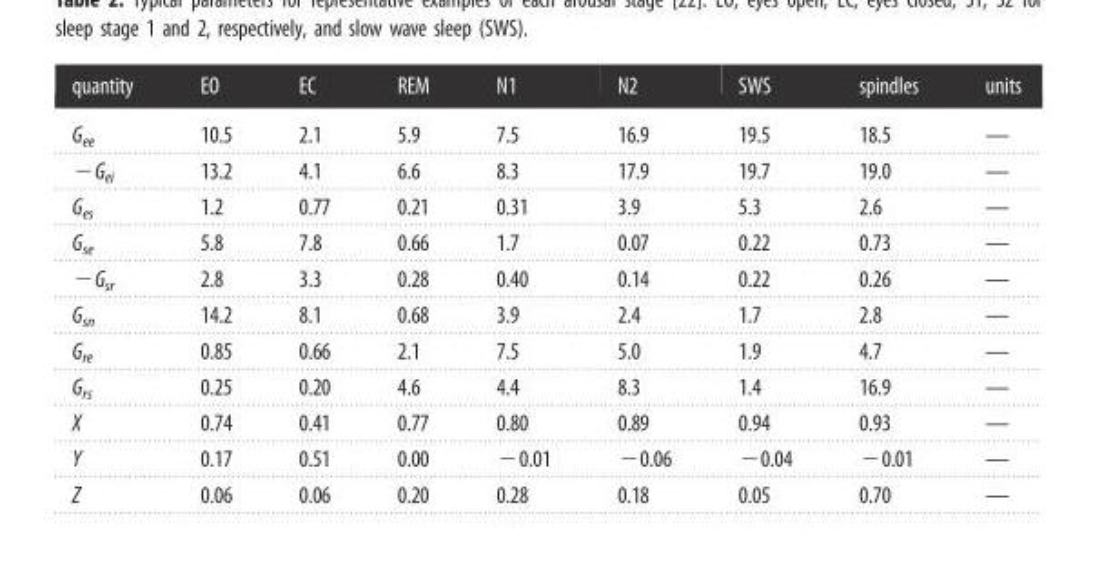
<table><thead><tr><td>quantity</td><td>EO</td><td>EC</td><td>REM</td><td>N1</td><td>N2</td><td>SWS</td><td>spindles</td><td>units</td></tr></thead><tbody><tr><td>G<sub>ee</sub></td><td>10.5</td><td>2.1</td><td>5.9</td><td>7.5</td><td>16.9</td><td>19.5</td><td>18.5</td><td>—</td></tr><tr><td>−G<sub>ei</sub></td><td>13.2</td><td>4.1</td><td>6.6</td><td>8.3</td><td>17.9</td><td>19.7</td><td>19.0</td><td>—</td></tr><tr><td>G<sub>es</sub></td><td>1.2</td><td>0.77</td><td>0.21</td><td>0.31</td><td>3.9</td><td>5.3</td><td>2.6</td><td>—</td></tr><tr><td>G<sub>se</sub></td><td>5.8</td><td>7.8</td><td>0.66</td><td>1.7</td><td>0.07</td><td>0.22</td><td>0.73</td><td>—</td></tr><tr><td>−G<sub>sr</sub></td><td>2.8</td><td>3.3</td><td>0.28</td><td>0.40</td><td>0.14</td><td>0.22</td><td>0.26</td><td>—</td></tr><tr><td>G<sub>sn</sub></td><td>14.2</td><td>8.1</td><td>0.68</td><td>3.9</td><td>2.4</td><td>1.7</td><td>2.8</td><td>—</td></tr><tr><td>G<sub>re</sub></td><td>0.85</td><td>0.66</td><td>2.1</td><td>7.5</td><td>5.0</td><td>1.9</td><td>4.7</td><td>—</td></tr><tr><td>G<sub>rs</sub></td><td>0.25</td><td>0.20</td><td>4.6</td><td>4.4</td><td>8.3</td><td>1.4</td><td>16.9</td><td>—</td></tr><tr><td>X</td><td>0.74</td><td>0.41</td><td>0.77</td><td>0.80</td><td>0.89</td><td>0.94</td><td>0.93</td><td>—</td></tr><tr><td>Y</td><td>0.17</td><td>0.51</td><td>0.00</td><td>−0.01</td><td>−0.06</td><td>−0.04</td><td>−0.01</td><td>—</td></tr><tr><td>Z</td><td>0.06</td><td>0.06</td><td>0.20</td><td>0.28</td><td>0.18</td><td>0.05</td><td>0.70</td><td>—</td></tr></tbody></table>